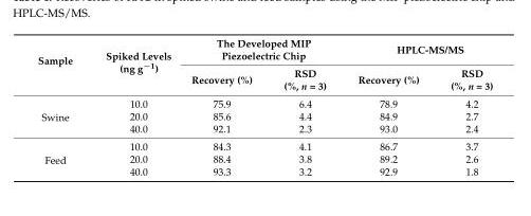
<table><thead><tr><td rowspan="2">Sample</td><td rowspan="2">Spiked Levels (ng g−1)</td><td colspan="2">The Developed MIP Piezoelectric Chip</td><td colspan="2">HPLC-MS/MS</td></tr><tr><td>Recovery (%)</td><td>RSD (%, n = 3)</td><td>Recovery (%)</td><td>RSD (%, n = 3)</td></tr></thead><tbody><tr><td rowspan="3">Swine</td><td>10.0</td><td>75.9</td><td>6.4</td><td>78.9</td><td>4.2</td></tr><tr><td>20.0</td><td>85.6</td><td>4.4</td><td>84.9</td><td>2.7</td></tr><tr><td>40.0</td><td>92.1</td><td>2.3</td><td>93.0</td><td>2.4</td></tr><tr><td rowspan="3">Feed</td><td>10.0</td><td>84.3</td><td>4.1</td><td>86.7</td><td>3.7</td></tr><tr><td>20.0</td><td>88.4</td><td>3.8</td><td>89.2</td><td>2.6</td></tr><tr><td>40.0</td><td>93.3</td><td>3.2</td><td>92.9</td><td>1.8</td></tr></tbody></table>